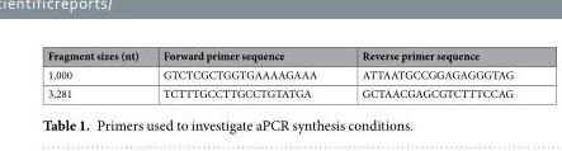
<table><thead><tr><td>Fragment sizes (nt)</td><td>Forward primer sequence</td><td>Reverse primer sequence</td></tr></thead><tbody><tr><td>1,000</td><td>GTCTCGCTGGTGAAAAGAAA</td><td>ATTAATGCCGGAGAGGGTAG</td></tr><tr><td>3,281</td><td>TCTTTGCCTTGCCTGTATGA</td><td>GCTAACGAGCGTCTTTCCAG</td></tr></tbody></table>